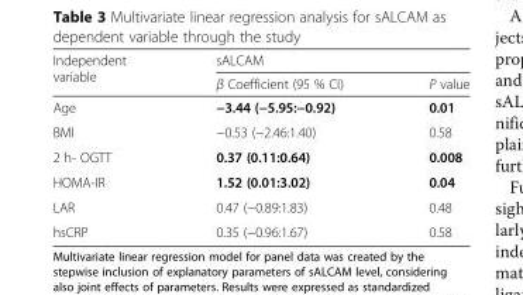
<table><thead><tr><td rowspan="2">Independent variable</td><td colspan="2">sALCAM</td></tr><tr><td>β Coefficient (95 % CI)</td><td>P value</td></tr></thead><tbody><tr><td>Age</td><td>−3.44 (−5.95:−0.92)</td><td>0.01</td></tr><tr><td>BMI</td><td>−0.53 (−2.46:1.40)</td><td>0.58</td></tr><tr><td>2 h- OGTT</td><td>0.37 (0.11:0.64)</td><td>0.008</td></tr><tr><td>HOMA-IR</td><td>1.52 (0.01:3.02)</td><td>0.04</td></tr><tr><td>LAR</td><td>0.47 (−0.89:1.83)</td><td>0.48</td></tr><tr><td>hsCRP</td><td>0.35 (−0.96:1.67)</td><td>0.58</td></tr></tbody></table>